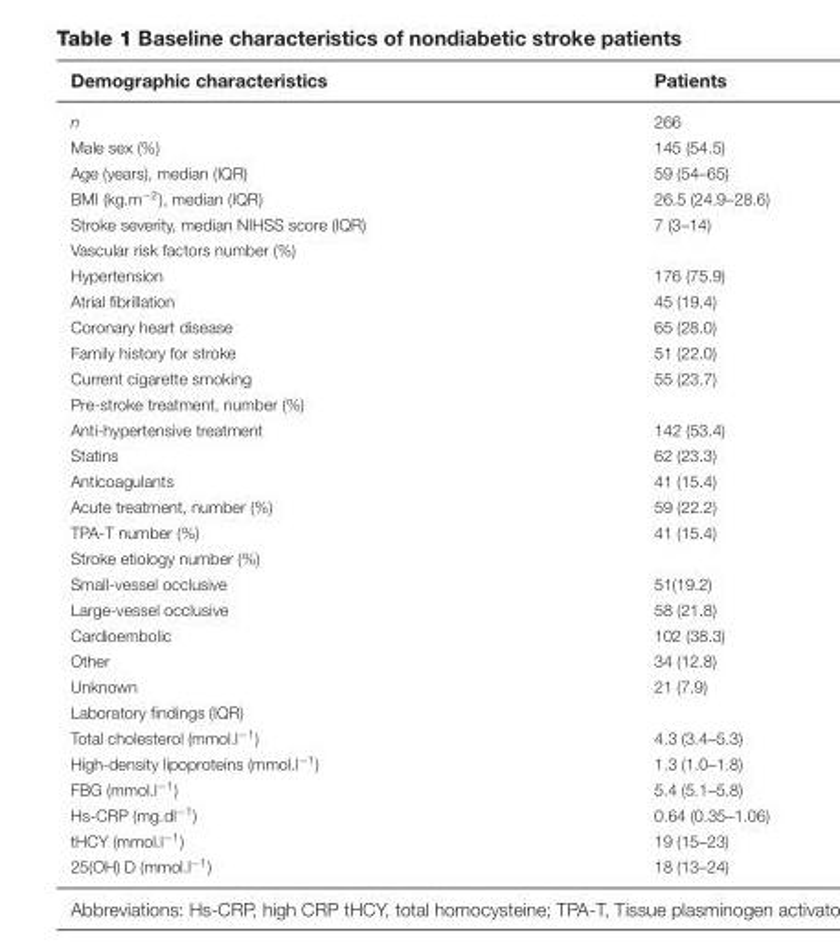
<table><thead><tr><td>Demographic characteristics</td><td>Patients</td></tr></thead><tbody><tr><td>n</td><td>266</td></tr><tr><td>Male sex (%)</td><td>145 (54.5)</td></tr><tr><td>Age (years), median (IQR)</td><td>59 (54–65)</td></tr><tr><td>BMI (kg.m<sup>−2</sup>), median (IQR)</td><td>26.5 (24.9–28.6)</td></tr><tr><td>Stroke severity, median NIHSS score (IQR)</td><td>7 (3–14)</td></tr><tr><td colspan="2">Vascular risk factors number (%)</td></tr><tr><td>Hypertension</td><td>176 (75.9)</td></tr><tr><td>Atrial fibrillation</td><td>45 (19.4)</td></tr><tr><td>Coronary heart disease</td><td>65 (28.0)</td></tr><tr><td>Family history for stroke</td><td>51 (22.0)</td></tr><tr><td>Current cigarette smoking</td><td>55 (23.7)</td></tr><tr><td colspan="2">Pre-stroke treatment, number (%)</td></tr><tr><td>Anti-hypertensive treatment</td><td>142 (53.4)</td></tr><tr><td>Statins</td><td>62 (23.3)</td></tr><tr><td>Anticoagulants</td><td>41 (15.4)</td></tr><tr><td>Acute treatment, number (%)</td><td>59 (22.2)</td></tr><tr><td>TPA-T number (%)</td><td>41 (15.4)</td></tr><tr><td colspan="2">Stroke etiology number (%)</td></tr><tr><td>Small-vessel occlusive</td><td>51(19.2)</td></tr><tr><td>Large-vessel occlusive</td><td>58 (21.8)</td></tr><tr><td>Cardioembolic</td><td>102 (38.3)</td></tr><tr><td>Other</td><td>34 (12.8)</td></tr><tr><td>Unknown</td><td>21 (7.9)</td></tr><tr><td colspan="2">Laboratory findings (IQR)</td></tr><tr><td>Total cholesterol (mmol.l<sup>−1</sup>)</td><td>4.3 (3.4–5.3)</td></tr><tr><td>High-density lipoproteins (mmol.l<sup>−1</sup>)</td><td>1.3 (1.0–1.8)</td></tr><tr><td>FBG (mmol.l<sup>−1</sup>)</td><td>5.4 (5.1–5.8)</td></tr><tr><td>Hs-CRP (mg.dl<sup>−1</sup>)</td><td>0.64 (0.35–1.06)</td></tr><tr><td>tHCY (mmol.l<sup>−1</sup>)</td><td>19 (15–23)</td></tr><tr><td>25(OH) D (mmol.l<sup>−1</sup>)</td><td>18 (13–24)</td></tr></tbody></table>